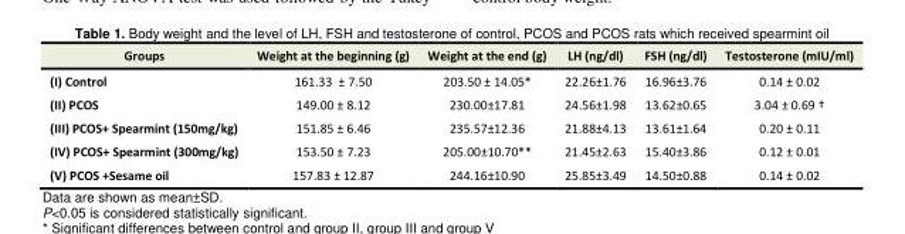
<table><tbody><tr><td>Groups</td><td>Weight at the beginning (g)</td><td>Weight at the end (g)</td><td>LH (ng/dl)</td><td>FSH (ng/dl)</td><td>Testosterone (mIU/ml)</td></tr><tr><td>(I) Control</td><td>161.33 ± 7.50</td><td>203.50 ± 14.05*</td><td>22.26±1.76</td><td>16.96±3.76</td><td>0.14 ± 0.02</td></tr><tr><td>(II) PCOS</td><td>149.00 ± 8.12</td><td>230.00±17.81</td><td>24.56±1.98</td><td>13.62±0.65</td><td>3.04 ± 0.69 †</td></tr><tr><td>(III) PCOS+ Spearmint (150mg/kg)</td><td>151.85 ± 6.46</td><td>235.57±12.36</td><td>21.88±4.13</td><td>13.61±1.64</td><td>0.20 ± 0.11</td></tr><tr><td>(IV) PCOS+ Spearmint (300mg/kg)</td><td>153.50 ± 7.23</td><td>205.00±10.70**</td><td>21.45±2.63</td><td>15.40±3.86</td><td>0.12 ± 0.01</td></tr><tr><td>(V) PCOS +Sesame oil</td><td>157.83 ± 12.87</td><td>244.16±10.90</td><td>25.85±3.49</td><td>14.50±0.88</td><td>0.14 ± 0.02</td></tr></tbody></table>